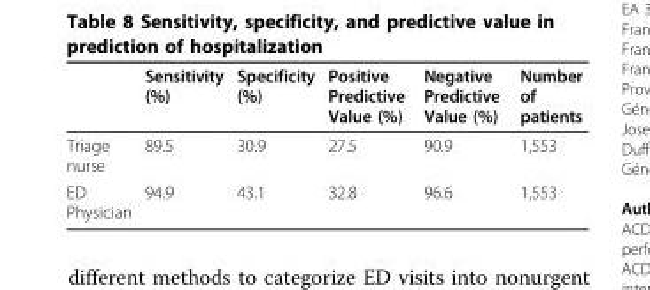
<table><thead><tr><td></td><td>Sensitivity (%)</td><td>Specificity (%)</td><td>Positive Predictive Value (%)</td><td>Negative Predictive Value (%)</td><td>Number of patients</td></tr></thead><tbody><tr><td>Triage nurse</td><td>89.5</td><td>30.9</td><td>27.5</td><td>90.9</td><td>1,553</td></tr><tr><td>ED Physician</td><td>94.9</td><td>43.1</td><td>32.8</td><td>96.6</td><td>1,553</td></tr></tbody></table>